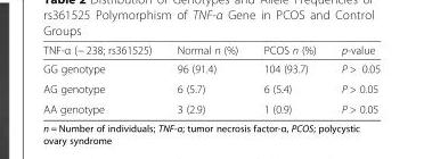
<table><thead><tr><td>TNF-α (− 238; rs361525)</td><td>Normal n (%)</td><td>PCOS n (%)</td><td>p-value</td></tr></thead><tbody><tr><td>GG genotype</td><td>96 (91.4)</td><td>104 (93.7)</td><td>P &gt; 0.05</td></tr><tr><td>AG genotype</td><td>6 (5.7)</td><td>6 (5.4)</td><td>P &gt; 0.05</td></tr><tr><td>AA genotype</td><td>3 (2.9)</td><td>1 (0.9)</td><td>P &gt; 0.05</td></tr></tbody></table>